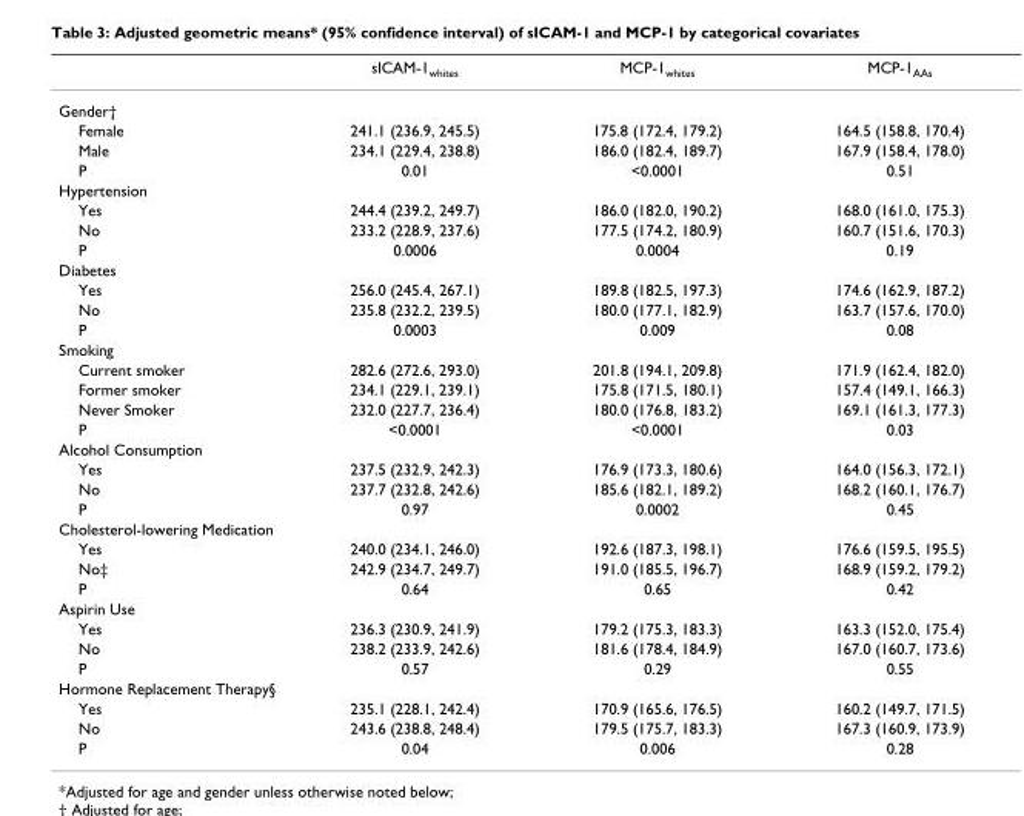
<table><thead><tr><td></td><td>sICAM-1<sub>whites</sub></td><td>MCP-1<sub>whites</sub></td><td>MCP-1<sub>AAs</sub></td></tr></thead><tbody><tr><td colspan="4">Gender†</td></tr><tr><td>Female</td><td>241.1 (236.9, 245.5)</td><td>175.8 (172.4, 179.2)</td><td>164.5 (158.8, 170.4)</td></tr><tr><td>Male</td><td>234.1 (229.4, 238.8)</td><td>186.0 (182.4, 189.7)</td><td>167.9 (158.4, 178.0)</td></tr><tr><td>P</td><td>0.01</td><td>&lt;0.0001</td><td>0.51</td></tr><tr><td colspan="4">Hypertension</td></tr><tr><td>Yes</td><td>244.4 (239.2, 249.7)</td><td>186.0 (182.0, 190.2)</td><td>168.0 (161.0, 175.3)</td></tr><tr><td>No</td><td>233.2 (228.9, 237.6)</td><td>177.5 (174.2, 180.9)</td><td>160.7 (151.6, 170.3)</td></tr><tr><td>P</td><td>0.0006</td><td>0.0004</td><td>0.19</td></tr><tr><td colspan="4">Diabetes</td></tr><tr><td>Yes</td><td>256.0 (245.4, 267.1)</td><td>189.8 (182.5, 197.3)</td><td>174.6 (162.9, 187.2)</td></tr><tr><td>No</td><td>235.8 (232.2, 239.5)</td><td>180.0 (177.1, 182.9)</td><td>163.7 (157.6, 170.0)</td></tr><tr><td>P</td><td>0.0003</td><td>0.009</td><td>0.08</td></tr><tr><td colspan="4">Smoking</td></tr><tr><td>Current smoker</td><td>282.6 (272.6, 293.0)</td><td>201.8 (194.1, 209.8)</td><td>171.9 (162.4, 182.0)</td></tr><tr><td>Former smoker</td><td>234.1 (229.1, 239.1)</td><td>175.8 (171.5, 180.1)</td><td>157.4 (149.1, 166.3)</td></tr><tr><td>Never Smoker</td><td>232.0 (227.7, 236.4)</td><td>180.0 (176.8, 183.2)</td><td>169.1 (161.3, 177.3)</td></tr><tr><td>P</td><td>&lt;0.0001</td><td>&lt;0.0001</td><td>0.03</td></tr><tr><td colspan="4">Alcohol Consumption</td></tr><tr><td>Yes</td><td>237.5 (232.9, 242.3)</td><td>176.9 (173.3, 180.6)</td><td>164.0 (156.3, 172.1)</td></tr><tr><td>No</td><td>237.7 (232.8, 242.6)</td><td>185.6 (182.1, 189.2)</td><td>168.2 (160.1, 176.7)</td></tr><tr><td>P</td><td>0.97</td><td>0.0002</td><td>0.45</td></tr><tr><td colspan="4">Cholesterol-lowering Medication</td></tr><tr><td>Yes</td><td>240.0 (234.1, 246.0)</td><td>192.6 (187.3, 198.1)</td><td>176.6 (159.5, 195.5)</td></tr><tr><td>No‡</td><td>242.9 (234.7, 249.7)</td><td>191.0 (185.5, 196.7)</td><td>168.9 (159.2, 179.2)</td></tr><tr><td>P</td><td>0.64</td><td>0.65</td><td>0.42</td></tr><tr><td colspan="4">Aspirin Use</td></tr><tr><td>Yes</td><td>236.3 (230.9, 241.9)</td><td>179.2 (175.3, 183.3)</td><td>163.3 (152.0, 175.4)</td></tr><tr><td>No</td><td>238.2 (233.9, 242.6)</td><td>181.6 (178.4, 184.9)</td><td>167.0 (160.7, 173.6)</td></tr><tr><td>P</td><td>0.57</td><td>0.29</td><td>0.55</td></tr><tr><td colspan="4">Hormone Replacement Therapy§</td></tr><tr><td>Yes</td><td>235.1 (228.1, 242.4)</td><td>170.9 (165.6, 176.5)</td><td>160.2 (149.7, 171.5)</td></tr><tr><td>No</td><td>243.6 (238.8, 248.4)</td><td>179.5 (175.7, 183.3)</td><td>167.3 (160.9, 173.9)</td></tr><tr><td>P</td><td>0.04</td><td>0.006</td><td>0.28</td></tr></tbody></table>